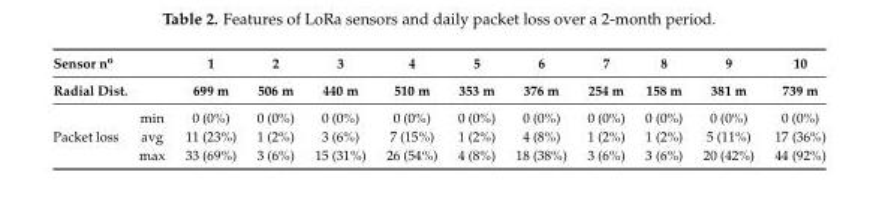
<table><thead><tr><td rowspan="2" colspan="2">Sensor n<sup>o</sup> Radial Dist.</td><td rowspan="3">1 699 m 0 (0%)</td><td rowspan="3">2 506 m 0 (0%)</td><td rowspan="3">3 440 m 0 (0%)</td><td rowspan="3">4 510 m 0 (0%)</td><td rowspan="3">5 353 m 0 (0%)</td><td rowspan="3">6 376 m 0 (0%)</td><td rowspan="3">7 254 m 0 (0%)</td><td rowspan="3">8 158 m 0 (0%)</td><td rowspan="3">9 381 m 0 (0%)</td><td rowspan="3">10 739 m 0 (0%)</td></tr><tr></tr><tr><td></td><td>min</td></tr></thead><tbody><tr><td rowspan="2">Packet loss</td><td>avg</td><td>11 (23%)</td><td>1 (2%)</td><td>3 (6%)</td><td>7 (15%)</td><td>1 (2%)</td><td>4 (8%)</td><td>1 (2%)</td><td>1 (2%)</td><td>5 (11%)</td><td>17 (36%)</td></tr><tr><td>max</td><td>33 (69%)</td><td>3 (6%)</td><td>15 (31%)</td><td>26 (54%)</td><td>4 (8%)</td><td>18 (38%)</td><td>3 (6%)</td><td>3 (6%)</td><td>20 (42%)</td><td>44 (92%)</td></tr></tbody></table>